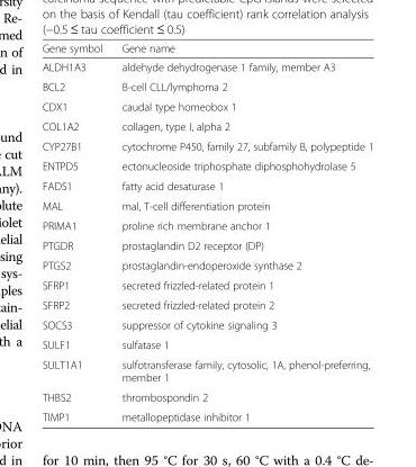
<table><thead><tr><td>Gene symbol</td><td>Gene name</td></tr></thead><tbody><tr><td>ALDH1A3</td><td>aldehyde dehydrogenase 1 family, member A3</td></tr><tr><td>BCL2</td><td>B-cell CLL/lymphoma 2</td></tr><tr><td>CDX1</td><td>caudal type homeobox 1</td></tr><tr><td>COL1A2</td><td>collagen, type I, alpha 2</td></tr><tr><td>CYP27B1</td><td>cytochrome P450, family 27, subfamily B, polypeptide 1</td></tr><tr><td>ENTPD5</td><td>ectonucleoside triphosphate diphosphohydrolase 5</td></tr><tr><td>FADS1</td><td>fatty acid desaturase 1</td></tr><tr><td>MAL</td><td>mal, T-cell differentiation protein</td></tr><tr><td>PRIMA1</td><td>proline rich membrane anchor 1</td></tr><tr><td>PTGDR</td><td>prostaglandin D2 receptor (DP)</td></tr><tr><td>PTGS2</td><td>prostaglandin-endoperoxide synthase 2</td></tr><tr><td>SFRP1</td><td>secreted frizzled-related protein 1</td></tr><tr><td>SFRP2</td><td>secreted frizzled-related protein 2</td></tr><tr><td>SOCS3</td><td>suppressor of cytokine signaling 3</td></tr><tr><td>SULF1</td><td>sulfatase 1</td></tr><tr><td>SULT1A1</td><td>sulfotransferase family, cytosolic, 1A, phenol-preferring, member 1</td></tr><tr><td>THBS2</td><td>thrombospondin 2</td></tr><tr><td>TIMP1</td><td>metallopeptidase inhibitor 1</td></tr></tbody></table>